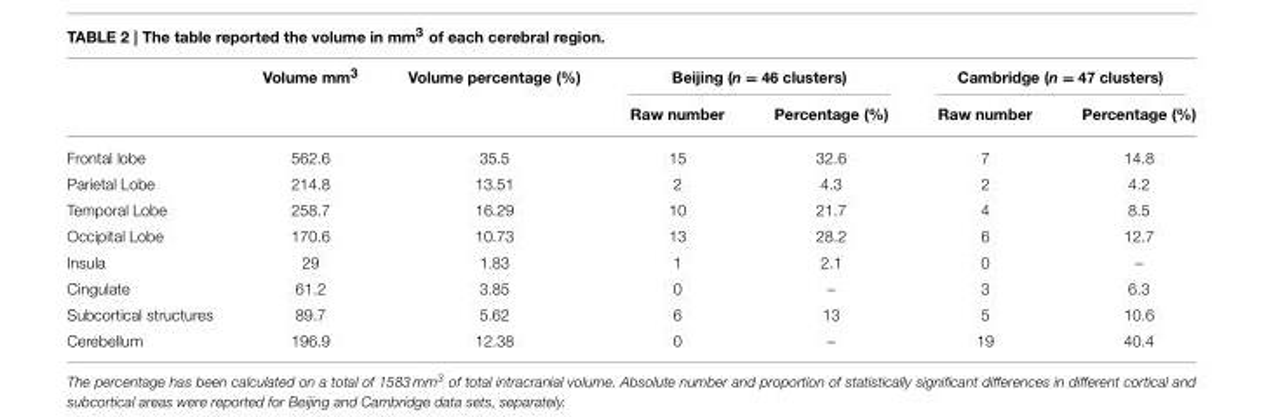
<table><thead><tr><td rowspan="2"></td><td rowspan="2">Volume mm<sup>3</sup></td><td rowspan="2">Volume percentage (%)</td><td colspan="2">Beijing (n = 46 clusters)</td><td colspan="2">Cambridge (n = 47 clusters)</td></tr><tr><td>Raw number</td><td>Percentage (%)</td><td>Raw number</td><td>Percentage (%)</td></tr></thead><tbody><tr><td>Frontal lobe</td><td>562.6</td><td>35.5</td><td>15</td><td>32.6</td><td>7</td><td>14.8</td></tr><tr><td>Parietal Lobe</td><td>214.8</td><td>13.51</td><td>2</td><td>4.3</td><td>2</td><td>4.2</td></tr><tr><td>Temporal Lobe</td><td>258.7</td><td>16.29</td><td>10</td><td>21.7</td><td>4</td><td>8.5</td></tr><tr><td>Occipital Lobe</td><td>170.6</td><td>10.73</td><td>13</td><td>28.2</td><td>6</td><td>12.7</td></tr><tr><td>Insula</td><td>29</td><td>1.83</td><td>1</td><td>2.1</td><td>0</td><td>–</td></tr><tr><td>Cingulate</td><td>61.2</td><td>3.85</td><td>0</td><td>–</td><td>3</td><td>6.3</td></tr><tr><td>Subcortical structures</td><td>89.7</td><td>5.62</td><td>6</td><td>13</td><td>5</td><td>10.6</td></tr><tr><td>Cerebellum</td><td>196.9</td><td>12.38</td><td>0</td><td>–</td><td>19</td><td>40.4</td></tr></tbody></table>